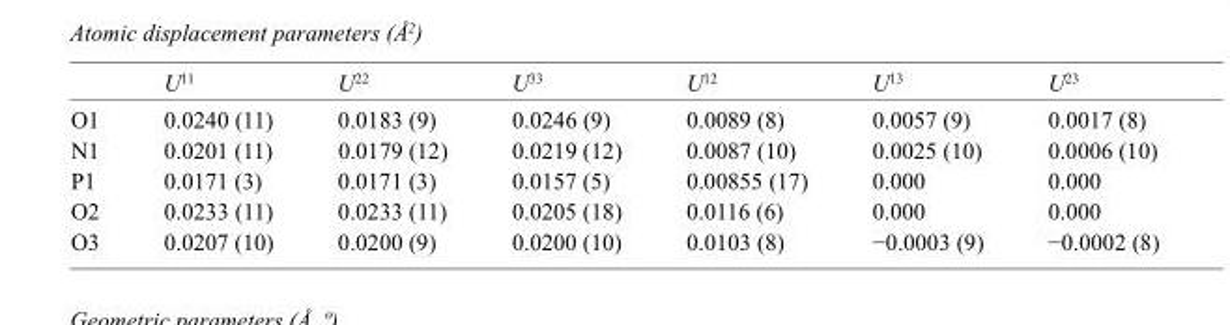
<table><thead><tr><td></td><td>U<sup>11</sup></td><td>U<sup>22</sup></td><td>U<sup>33</sup></td><td>U<sup>12</sup></td><td>U<sup>13</sup></td><td>U<sup>23</sup></td></tr></thead><tbody><tr><td>O1</td><td>0.0240 (11)</td><td>0.0183 (9)</td><td>0.0246 (9)</td><td>0.0089 (8)</td><td>0.0057 (9)</td><td>0.0017 (8)</td></tr><tr><td>N1</td><td>0.0201 (11)</td><td>0.0179 (12)</td><td>0.0219 (12)</td><td>0.0087 (10)</td><td>0.0025 (10)</td><td>0.0006 (10)</td></tr><tr><td>P1</td><td>0.0171 (3)</td><td>0.0171 (3)</td><td>0.0157 (5)</td><td>0.00855 (17)</td><td>0.000</td><td>0.000</td></tr><tr><td>O2</td><td>0.0233 (11)</td><td>0.0233 (11)</td><td>0.0205 (18)</td><td>0.0116 (6)</td><td>0.000</td><td>0.000</td></tr><tr><td>O3</td><td>0.0207 (10)</td><td>0.0200 (9)</td><td>0.0200 (10)</td><td>0.0103 (8)</td><td>−0.0003 (9)</td><td>−0.0002 (8)</td></tr></tbody></table>